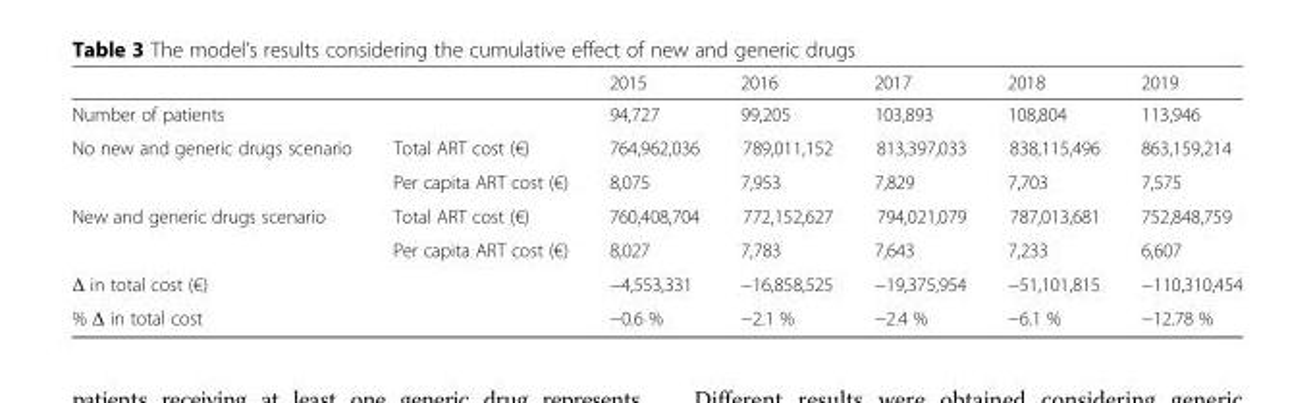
<table><thead><tr><td></td><td></td><td>2015</td><td>2016</td><td>2017</td><td>2018</td><td>2019</td></tr></thead><tbody><tr><td colspan="2">Number of patients</td><td>94,727</td><td>99,205</td><td>103,893</td><td>108,804</td><td>113,946</td></tr><tr><td rowspan="2">No new and generic drugs scenario</td><td>Total ART cost (€)</td><td>764,962,036</td><td>789,011,152</td><td>813,397,033</td><td>838,115,496</td><td>863,159,214</td></tr><tr><td>Per capita ART cost (€)</td><td>8,075</td><td>7,953</td><td>7,829</td><td>7,703</td><td>7,575</td></tr><tr><td rowspan="2">New and generic drugs scenario</td><td>Total ART cost (€)</td><td>760,408,704</td><td>772,152,627</td><td>794,021,079</td><td>787,013,681</td><td>752,848,759</td></tr><tr><td>Per capita ART cost (€)</td><td>8,027</td><td>7,783</td><td>7,643</td><td>7,233</td><td>6,607</td></tr><tr><td colspan="2">Δ in total cost (€)</td><td>−4,553,331</td><td>−16,858,525</td><td>−19,375,954</td><td>−51,101,815</td><td>−110,310,454</td></tr><tr><td colspan="2">% Δ in total cost</td><td>−0.6 %</td><td>−2.1 %</td><td>−2.4 %</td><td>−6.1 %</td><td>−12.78 %</td></tr></tbody></table>